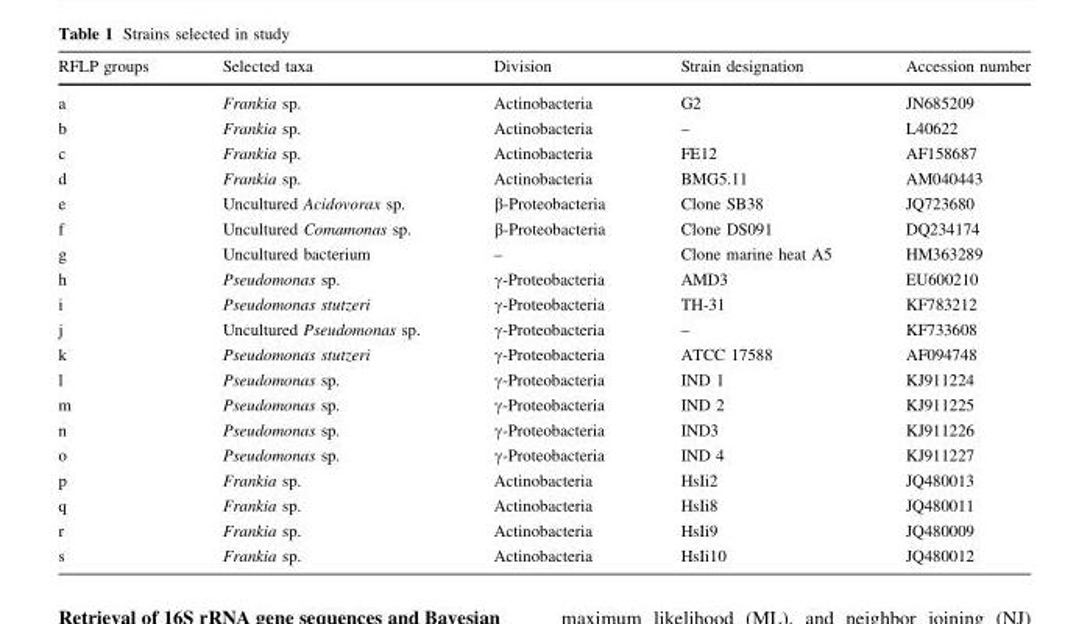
<table><thead><tr><td>RFLP groups</td><td>Selected taxa</td><td>Division</td><td>Strain designation</td><td>Accession number</td></tr></thead><tbody><tr><td>a</td><td>Frankia sp.</td><td>Actinobacteria</td><td>G2</td><td>JN685209</td></tr><tr><td>b</td><td>Frankia sp.</td><td>Actinobacteria</td><td>–</td><td>L40622</td></tr><tr><td>c</td><td>Frankia sp.</td><td>Actinobacteria</td><td>FE12</td><td>AF158687</td></tr><tr><td>d</td><td>Frankia sp.</td><td>Actinobacteria</td><td>BMG5.11</td><td>AM040443</td></tr><tr><td>e</td><td>Uncultured Acidovorax sp.</td><td>β-Proteobacteria</td><td>Clone SB38</td><td>JQ723680</td></tr><tr><td>f</td><td>Uncultured Comamonas sp.</td><td>β-Proteobacteria</td><td>Clone DS091</td><td>DQ234174</td></tr><tr><td>g</td><td>Uncultured bacterium</td><td>–</td><td>Clone marine heat A5</td><td>HM363289</td></tr><tr><td>h</td><td>Pseudomonas sp.</td><td>γ-Proteobacteria</td><td>AMD3</td><td>EU600210</td></tr><tr><td>i</td><td>Pseudomonas stutzeri</td><td>γ-Proteobacteria</td><td>TH-31</td><td>KF783212</td></tr><tr><td>j</td><td>Uncultured Pseudomonas sp.</td><td>γ-Proteobacteria</td><td>–</td><td>KF733608</td></tr><tr><td>k</td><td>Pseudomonas stutzeri</td><td>γ-Proteobacteria</td><td>ATCC 17588</td><td>AF094748</td></tr><tr><td>l</td><td>Pseudomonas sp.</td><td>γ-Proteobacteria</td><td>IND 1</td><td>KJ911224</td></tr><tr><td>m</td><td>Pseudomonas sp.</td><td>γ-Proteobacteria</td><td>IND 2</td><td>KJ911225</td></tr><tr><td>n</td><td>Pseudomonas sp.</td><td>γ-Proteobacteria</td><td>IND3</td><td>KJ911226</td></tr><tr><td>o</td><td>Pseudomonas sp.</td><td>γ-Proteobacteria</td><td>IND 4</td><td>KJ911227</td></tr><tr><td>p</td><td>Frankia sp.</td><td>Actinobacteria</td><td>HsIi2</td><td>JQ480013</td></tr><tr><td>q</td><td>Frankia sp.</td><td>Actinobacteria</td><td>HsIi8</td><td>JQ480011</td></tr><tr><td>r</td><td>Frankia sp.</td><td>Actinobacteria</td><td>HsIi9</td><td>JQ480009</td></tr><tr><td>s</td><td>Frankia sp.</td><td>Actinobacteria</td><td>HsIi10</td><td>JQ480012</td></tr></tbody></table>